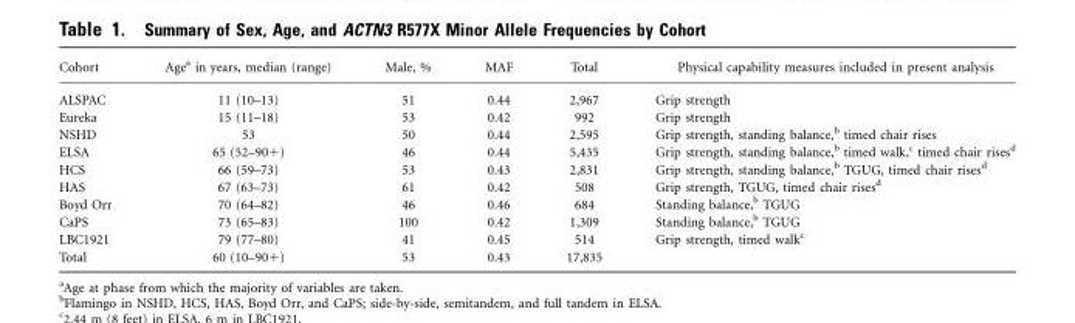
<table><thead><tr><td>Cohort</td><td>Age<sup>a</sup> in years, median (range)</td><td>Male, %</td><td>MAF</td><td>Total</td><td>Physical capability measures included in present analysis</td></tr></thead><tbody><tr><td>ALSPAC</td><td>11 (10–13)</td><td>51</td><td>0.44</td><td>2,967</td><td>Grip strength</td></tr><tr><td>Eureka</td><td>15 (11–18)</td><td>53</td><td>0.42</td><td>992</td><td>Grip strength</td></tr><tr><td>NSHD</td><td>53</td><td>50</td><td>0.44</td><td>2,595</td><td>Grip strength, standing balance,<sup>b</sup> timed chair rises</td></tr><tr><td>ELSA</td><td>65 (52–90+)</td><td>46</td><td>0.44</td><td>5,435</td><td>Grip strength, standing balance,<sup>b</sup> timed walk,<sup>c</sup> timed chair rises<sup>d</sup></td></tr><tr><td>HCS</td><td>66 (59–73)</td><td>53</td><td>0.43</td><td>2,831</td><td>Grip strength, standing balance,<sup>b</sup> TGUG, timed chair rises<sup>d</sup></td></tr><tr><td>HAS</td><td>67 (63–73)</td><td>61</td><td>0.42</td><td>508</td><td>Grip strength, TGUG, timed chair rises<sup>d</sup></td></tr><tr><td>Boyd Orr</td><td>70 (64–82)</td><td>46</td><td>0.46</td><td>684</td><td>Standing balance,<sup>b</sup> TGUG</td></tr><tr><td>CaPS</td><td>73 (65–83)</td><td>100</td><td>0.42</td><td>1,309</td><td>Standing balance,<sup>b</sup> TGUG</td></tr><tr><td>LBC1921</td><td>79 (77–80)</td><td>41</td><td>0.45</td><td>514</td><td>Grip strength, timed walk<sup>c</sup></td></tr><tr><td>Total</td><td>60 (10–90+)</td><td>53</td><td>0.43</td><td>17,835</td><td></td></tr></tbody></table>